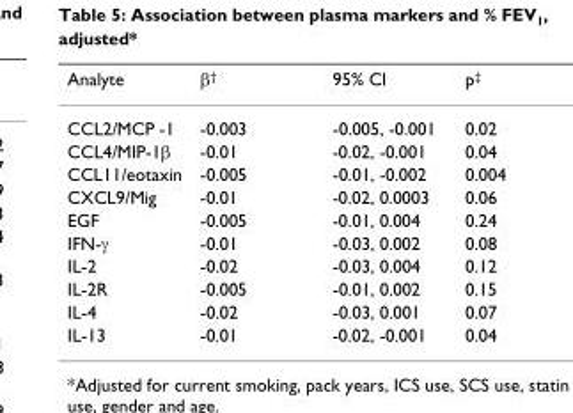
<table><thead><tr><td>Analyte</td><td>β<sup>†</sup></td><td>95% CI</td><td>p<sup>‡</sup></td></tr></thead><tbody><tr><td>CCL2/MCP -1</td><td>-0.003</td><td>-0.005, -0.001</td><td>0.02</td></tr><tr><td>CCL4/MIP-1β</td><td>-0.01</td><td>-0.02, -0.001</td><td>0.04</td></tr><tr><td>CCL11/eotaxin</td><td>-0.005</td><td>-0.01, -0.002</td><td>0.004</td></tr><tr><td>CXCL9/Mig</td><td>-0.01</td><td>-0.02, 0.0003</td><td>0.06</td></tr><tr><td>EGF</td><td>-0.005</td><td>-0.01, 0.004</td><td>0.24</td></tr><tr><td>IFN-γ</td><td>-0.01</td><td>-0.03, 0.002</td><td>0.08</td></tr><tr><td>IL-2</td><td>-0.02</td><td>-0.03, 0.004</td><td>0.12</td></tr><tr><td>IL-2R</td><td>-0.005</td><td>-0.01, 0.002</td><td>0.15</td></tr><tr><td>IL-4</td><td>-0.02</td><td>-0.03, 0.001</td><td>0.07</td></tr><tr><td>IL-13</td><td>-0.01</td><td>-0.02, -0.001</td><td>0.04</td></tr></tbody></table>